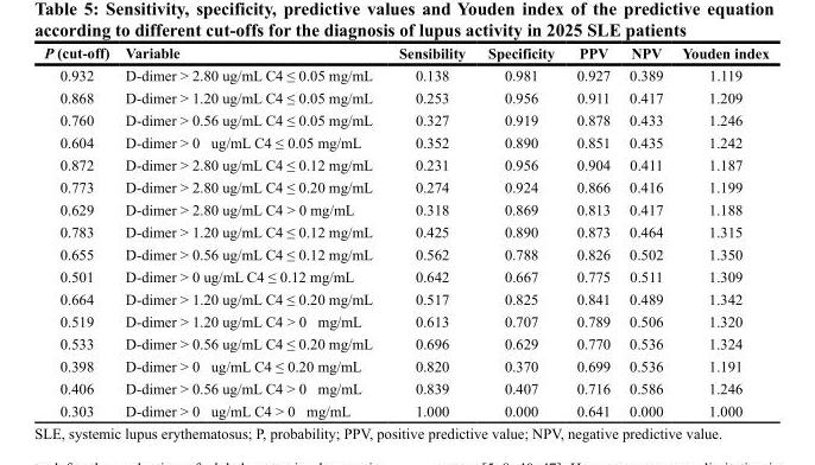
<table><thead><tr><td>P (cut-off)</td><td>Variable</td><td>Sensibility</td><td>Specificity</td><td>PPV</td><td>NPV</td><td>Youden index</td></tr></thead><tbody><tr><td>0.932</td><td>D-dimer &gt; 2.80 ug/mL C4 ≤ 0.05 mg/mL</td><td>0.138</td><td>0.981</td><td>0.927</td><td>0.389</td><td>1.119</td></tr><tr><td>0.868</td><td>D-dimer &gt; 1.20 ug/mL C4 ≤ 0.05 mg/mL</td><td>0.253</td><td>0.956</td><td>0.911</td><td>0.417</td><td>1.209</td></tr><tr><td>0.760</td><td>D-dimer &gt; 0.56 ug/mL C4 ≤ 0.05 mg/mL</td><td>0.327</td><td>0.919</td><td>0.878</td><td>0.433</td><td>1.246</td></tr><tr><td>0.604</td><td>D-dimer &gt; 0 ug/mL C4 ≤ 0.05 mg/mL</td><td>0.352</td><td>0.890</td><td>0.851</td><td>0.435</td><td>1.242</td></tr><tr><td>0.872</td><td>D-dimer &gt; 2.80 ug/mL C4 ≤ 0.12 mg/mL</td><td>0.231</td><td>0.956</td><td>0.904</td><td>0.411</td><td>1.187</td></tr><tr><td>0.773</td><td>D-dimer &gt; 2.80 ug/mL C4 ≤ 0.20 mg/mL</td><td>0.274</td><td>0.924</td><td>0.866</td><td>0.416</td><td>1.199</td></tr><tr><td>0.629</td><td>D-dimer &gt; 2.80 ug/mL C4 &gt; 0 mg/mL</td><td>0.318</td><td>0.869</td><td>0.813</td><td>0.417</td><td>1.188</td></tr><tr><td>0.783</td><td>D-dimer &gt; 1.20 ug/mL C4 ≤ 0.12 mg/mL</td><td>0.425</td><td>0.890</td><td>0.873</td><td>0.464</td><td>1.315</td></tr><tr><td>0.655</td><td>D-dimer &gt; 0.56 ug/mL C4 ≤ 0.12 mg/mL</td><td>0.562</td><td>0.788</td><td>0.826</td><td>0.502</td><td>1.350</td></tr><tr><td>0.501</td><td>D-dimer &gt; 0 ug/mL C4 ≤ 0.12 mg/mL</td><td>0.642</td><td>0.667</td><td>0.775</td><td>0.511</td><td>1.309</td></tr><tr><td>0.664</td><td>D-dimer &gt; 1.20 ug/mL C4 ≤ 0.20 mg/mL</td><td>0.517</td><td>0.825</td><td>0.841</td><td>0.489</td><td>1.342</td></tr><tr><td>0.519</td><td>D-dimer &gt; 1.20 ug/mL C4 &gt; 0 mg/mL</td><td>0.613</td><td>0.707</td><td>0.789</td><td>0.506</td><td>1.320</td></tr><tr><td>0.533</td><td>D-dimer &gt; 0.56 ug/mL C4 ≤ 0.20 mg/mL</td><td>0.696</td><td>0.629</td><td>0.770</td><td>0.536</td><td>1.324</td></tr><tr><td>0.398</td><td>D-dimer &gt; 0 ug/mL C4 ≤ 0.20 mg/mL</td><td>0.820</td><td>0.370</td><td>0.699</td><td>0.536</td><td>1.191</td></tr><tr><td>0.406</td><td>D-dimer &gt; 0.56 ug/mL C4 &gt; 0 mg/mL</td><td>0.839</td><td>0.407</td><td>0.716</td><td>0.586</td><td>1.246</td></tr><tr><td>0.303</td><td>D-dimer &gt; 0 ug/mL C4 &gt; 0 mg/mL</td><td>1.000</td><td>0.000</td><td>0.641</td><td>0.000</td><td>1.000</td></tr></tbody></table>